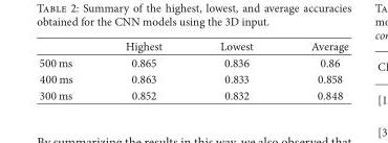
<table><thead><tr><td></td><td>Highest</td><td>Lowest</td><td>Average</td></tr></thead><tbody><tr><td>500 ms</td><td>0.865</td><td>0.836</td><td>0.86</td></tr><tr><td>400 ms</td><td>0.863</td><td>0.833</td><td>0.858</td></tr><tr><td>300 ms</td><td>0.852</td><td>0.832</td><td>0.848</td></tr></tbody></table>